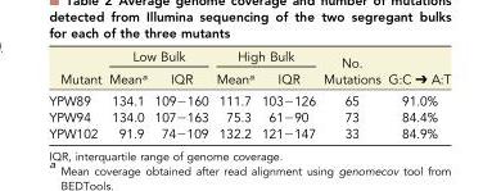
<table><thead><tr><td rowspan="2">Mutant</td><td colspan="2">Low Bulk</td><td colspan="2">High Bulk</td><td rowspan="2">No. Mutations</td><td rowspan="2">G:C ➔ A:T</td></tr><tr><td>Mean<sup>a</sup></td><td>IQR</td><td>Mean<sup>a</sup></td><td>IQR</td></tr></thead><tbody><tr><td>YPW89</td><td>134.1</td><td>109−160</td><td>111.7</td><td>103−126</td><td>65</td><td>91.0%</td></tr><tr><td>YPW94</td><td>134.0</td><td>107−163</td><td>75.3</td><td>61−90</td><td>73</td><td>84.4%</td></tr><tr><td>YPW102</td><td>91.9</td><td>74−109</td><td>132.2</td><td>121−147</td><td>33</td><td>84.9%</td></tr></tbody></table>